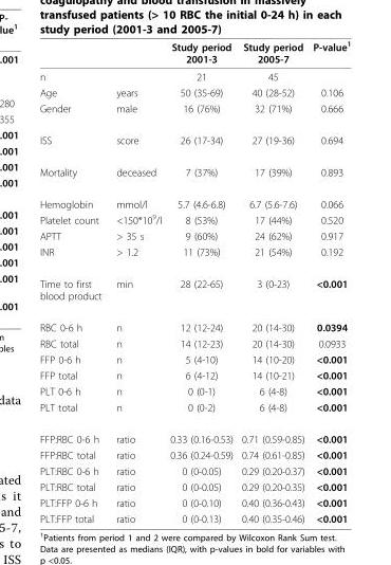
<table><thead><tr><td></td><td></td><td>Study period 2001-3</td><td>Study period 2005-7</td><td>P-value<sup>1</sup></td></tr></thead><tbody><tr><td>n</td><td></td><td>21</td><td>45</td><td></td></tr><tr><td>Age</td><td>years</td><td>50 (35-69)</td><td>40 (28-52)</td><td>0.106</td></tr><tr><td>Gender</td><td>male</td><td>16 (76%)</td><td>32 (71%)</td><td>0.666</td></tr><tr><td>ISS</td><td>score</td><td>26 (17-34)</td><td>27 (19-36)</td><td>0.694</td></tr><tr><td>Mortality</td><td>deceased</td><td>7 (37%)</td><td>17 (39%)</td><td>0.893</td></tr><tr><td>Hemoglobin</td><td>mmol/l</td><td>5.7 (4.6-6.8)</td><td>6.7 (5.6-7.6)</td><td>0.066</td></tr><tr><td>Platelet count</td><td>&lt;150*10<sup>9</sup>/l</td><td>8 (53%)</td><td>17 (44%)</td><td>0.520</td></tr><tr><td>APTT</td><td>&gt; 35 s</td><td>9 (60%)</td><td>24 (62%)</td><td>0.917</td></tr><tr><td>INR</td><td>&gt; 1.2</td><td>11 (73%)</td><td>21 (54%)</td><td>0.192</td></tr><tr><td>Time to first blood product</td><td>min</td><td>28 (22-65)</td><td>3 (0-23)</td><td>&lt;0.001</td></tr><tr><td>RBC 0-6 h</td><td>n</td><td>12 (12-24)</td><td>20 (14-30)</td><td>0.0394</td></tr><tr><td>RBC total</td><td>n</td><td>14 (12-23)</td><td>20 (14-30)</td><td>0.0933</td></tr><tr><td>FFP 0-6 h</td><td>n</td><td>5 (4-10)</td><td>14 (10-20)</td><td>&lt;0.001</td></tr><tr><td>FFP total</td><td>n</td><td>6 (4-12)</td><td>14 (10-21)</td><td>&lt;0.001</td></tr><tr><td>PLT 0-6 h</td><td>n</td><td>0 (0-1)</td><td>6 (4-8)</td><td>&lt;0.001</td></tr><tr><td>PLT total</td><td>n</td><td>0 (0-2)</td><td>6 (4-8)</td><td>&lt;0.001</td></tr><tr><td>FFP:RBC 0-6 h</td><td>ratio</td><td>0.33 (0.16-0.53)</td><td>0.71 (0.59-0.85)</td><td>&lt;0.001</td></tr><tr><td>FFP:RBC total</td><td>ratio</td><td>0.36 (0.24-0.59)</td><td>0.74 (0.61-0.85)</td><td>&lt;0.001</td></tr><tr><td>PLT:RBC 0-6 h</td><td>ratio</td><td>0 (0-0.05)</td><td>0.29 (0.20-0.37)</td><td>&lt;0.001</td></tr><tr><td>PLT:RBC total</td><td>ratio</td><td>0 (0-0.05)</td><td>0.29 (0.20-0.35)</td><td>&lt;0.001</td></tr><tr><td>PLT:FFP 0-6 h</td><td>ratio</td><td>0 (0-0.10)</td><td>0.40 (0.36-0.43)</td><td>&lt;0.001</td></tr><tr><td>PLT:FFP total</td><td>ratio</td><td>0 (0-0.13)</td><td>0.40 (0.35-0.46)</td><td>&lt;0.001</td></tr></tbody></table>